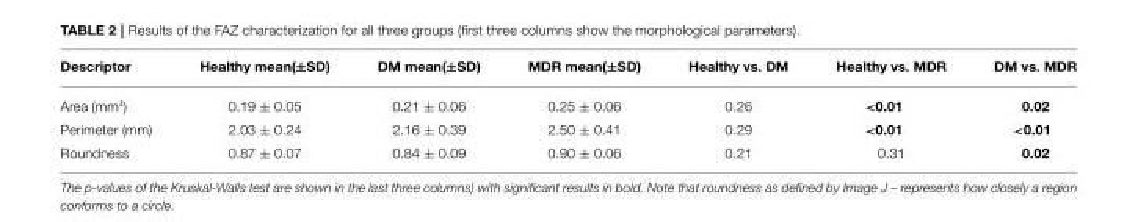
<table><thead><tr><td>Descriptor</td><td>Healthy mean(±SD)</td><td>DM mean(±SD)</td><td>MDR mean(±SD)</td><td>Healthy vs. DM</td><td>Healthy vs. MDR</td><td>DM vs. MDR</td></tr></thead><tbody><tr><td>Area (mm²)</td><td>0.19 ± 0.05</td><td>0.21 ± 0.06</td><td>0.25 ± 0.06</td><td>0.26</td><td>&lt;0.01</td><td>0.02</td></tr><tr><td>Perimeter (mm)</td><td>2.03 ± 0.24</td><td>2.16 ± 0.39</td><td>2.50 ± 0.41</td><td>0.29</td><td>&lt;0.01</td><td>&lt;0.01</td></tr><tr><td>Roundness</td><td>0.87 ± 0.07</td><td>0.84 ± 0.09</td><td>0.90 ± 0.06</td><td>0.21</td><td>0.31</td><td>0.02</td></tr></tbody></table>